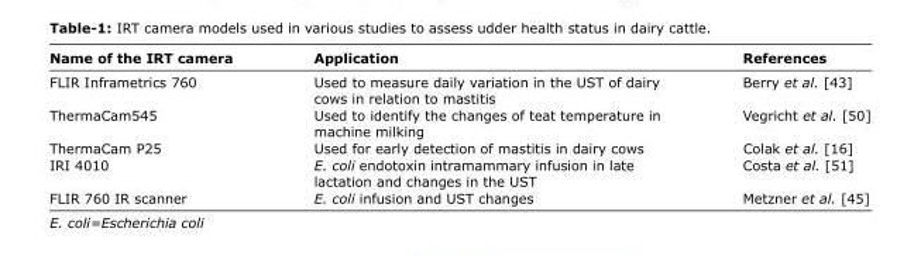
<table><thead><tr><td>Name of the IRT camera</td><td>Application</td><td>References</td></tr></thead><tbody><tr><td>FLIR Inframetrics 760</td><td>Used to measure daily variation in the UST of dairy cows in relation to mastitis</td><td>Berry et al. [43]</td></tr><tr><td>ThermaCam545</td><td>Used to identify the changes of teat temperature in machine milking</td><td>Vegricht et al. [50]</td></tr><tr><td>ThermaCam P25</td><td>Used for early detection of mastitis in dairy cows</td><td>Colak et al. [16]</td></tr><tr><td>IRI 4010</td><td>E. coli endotoxin intramammary infusion in late lactation and changes in the UST</td><td>Costa et al. [51]</td></tr><tr><td>FLIR 760 IR scanner</td><td>E. coli infusion and UST changes</td><td>Metzner et al. [45]</td></tr></tbody></table>